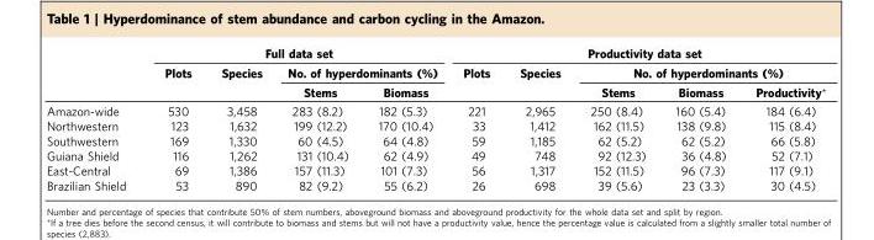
<table><thead><tr><td rowspan="3"></td><td colspan="4">Full data set</td><td colspan="5">Productivity data set</td></tr><tr><td rowspan="2">Plots</td><td rowspan="2">Species</td><td colspan="2">No. of hyperdominants (%)</td><td rowspan="2">Plots</td><td rowspan="2">Species</td><td colspan="3">No. of hyperdominants (%)</td></tr><tr><td>Stems</td><td>Biomass</td><td>Stems</td><td>Biomass</td><td>Productivity*</td></tr></thead><tbody><tr><td>Amazon-wide</td><td>530</td><td>3,458</td><td>283 (8.2)</td><td>182 (5.3)</td><td>221</td><td>2,965</td><td>250 (8.4)</td><td>160 (5.4)</td><td>184 (6.4)</td></tr><tr><td>Northwestern</td><td>123</td><td>1,632</td><td>199 (12.2)</td><td>170 (10.4)</td><td>33</td><td>1,412</td><td>162 (11.5)</td><td>138 (9.8)</td><td>115 (8.4)</td></tr><tr><td>Southwestern</td><td>169</td><td>1,330</td><td>60 (4.5)</td><td>64 (4.8)</td><td>59</td><td>1,185</td><td>62 (5.2)</td><td>62 (5.2)</td><td>66 (5.8)</td></tr><tr><td>Guiana Shield</td><td>116</td><td>1,262</td><td>131 (10.4)</td><td>62 (4.9)</td><td>49</td><td>748</td><td>92 (12.3)</td><td>36 (4.8)</td><td>52 (7.1)</td></tr><tr><td>East-Central</td><td>69</td><td>1,386</td><td>157 (11.3)</td><td>101 (7.3)</td><td>56</td><td>1,317</td><td>152 (11.5)</td><td>96 (7.3)</td><td>117 (9.1)</td></tr><tr><td>Brazilian Shield</td><td>53</td><td>890</td><td>82 (9.2)</td><td>55 (6.2)</td><td>26</td><td>698</td><td>39 (5.6)</td><td>23 (3.3)</td><td>30 (4.5)</td></tr></tbody></table>